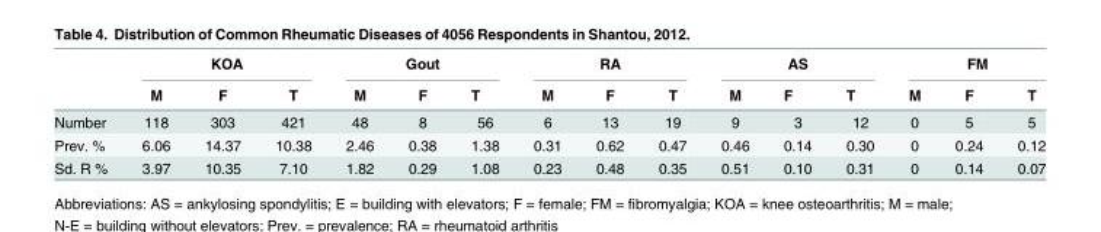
<table><thead><tr><td rowspan="2"></td><td colspan="3">KOA</td><td colspan="3">Gout</td><td colspan="3">RA</td><td colspan="3">AS</td><td colspan="3">FM</td></tr><tr><td>M</td><td>F</td><td>T</td><td>M</td><td>F</td><td>T</td><td>M</td><td>F</td><td>T</td><td>M</td><td>F</td><td>T</td><td>M</td><td>F</td><td>T</td></tr></thead><tbody><tr><td>Number</td><td>118</td><td>303</td><td>421</td><td>48</td><td>8</td><td>56</td><td>6</td><td>13</td><td>19</td><td>9</td><td>3</td><td>12</td><td>0</td><td>5</td><td>5</td></tr><tr><td>Prev. %</td><td>6.06</td><td>14.37</td><td>10.38</td><td>2.46</td><td>0.38</td><td>1.38</td><td>0.31</td><td>0.62</td><td>0.47</td><td>0.46</td><td>0.14</td><td>0.30</td><td>0</td><td>0.24</td><td>0.12</td></tr><tr><td>Sd. R %</td><td>3.97</td><td>10.35</td><td>7.10</td><td>1.82</td><td>0.29</td><td>1.08</td><td>0.23</td><td>0.48</td><td>0.35</td><td>0.51</td><td>0.10</td><td>0.31</td><td>0</td><td>0.14</td><td>0.07</td></tr></tbody></table>